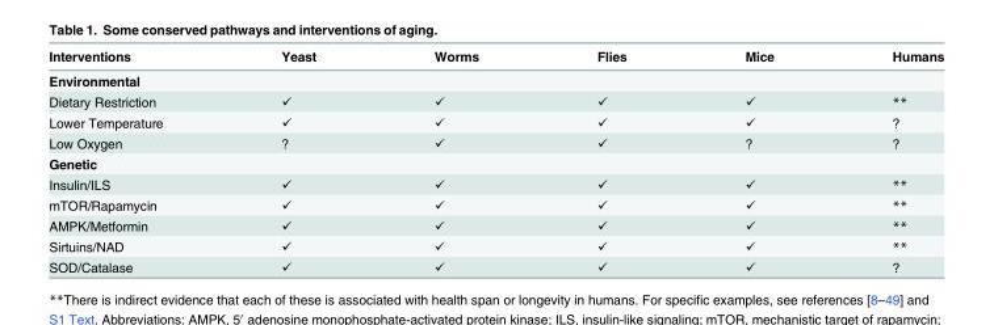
<table><thead><tr><td>Interventions</td><td>Yeast</td><td>Worms</td><td>Flies</td><td>Mice</td><td>Humans</td></tr></thead><tbody><tr><td colspan="6">Environmental</td></tr><tr><td>Dietary Restriction</td><td>✓</td><td>✓</td><td>✓</td><td>✓</td><td>**</td></tr><tr><td>Lower Temperature</td><td>✓</td><td>✓</td><td>✓</td><td>✓</td><td>?</td></tr><tr><td>Low Oxygen</td><td>?</td><td>✓</td><td>✓</td><td>?</td><td>?</td></tr><tr><td colspan="6">Genetic</td></tr><tr><td>Insulin/ILS</td><td>✓</td><td>✓</td><td>✓</td><td>✓</td><td>**</td></tr><tr><td>mTOR/Rapamycin</td><td>✓</td><td>✓</td><td>✓</td><td>✓</td><td>**</td></tr><tr><td>AMPK/Metformin</td><td>✓</td><td>✓</td><td>✓</td><td>✓</td><td>**</td></tr><tr><td>Sirtuins/NAD</td><td>✓</td><td>✓</td><td>✓</td><td>✓</td><td>**</td></tr><tr><td>SOD/Catalase</td><td>✓</td><td>✓</td><td>✓</td><td>✓</td><td>?</td></tr></tbody></table>